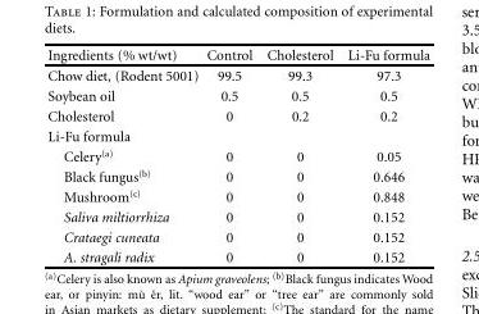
<table><thead><tr><td>Ingredients (% wt/wt)</td><td>Control</td><td>Cholesterol</td><td>Li-Fu formula</td></tr></thead><tbody><tr><td>Chow diet, (Rodent 5001)</td><td>99.5</td><td>99.3</td><td>97.3</td></tr><tr><td>Soybean oil</td><td>0.5</td><td>0.5</td><td>0.5</td></tr><tr><td>Cholesterol</td><td>0</td><td>0.2</td><td>0.2</td></tr><tr><td colspan="4">Li-Fu formula</td></tr><tr><td>Celery<sup>(a)</sup></td><td>0</td><td>0</td><td>0.05</td></tr><tr><td>Black fungus<sup>(b)</sup></td><td>0</td><td>0</td><td>0.646</td></tr><tr><td>Mushroom<sup>(c)</sup></td><td>0</td><td>0</td><td>0.848</td></tr><tr><td>Saliva miltiorrhiza</td><td>0</td><td>0</td><td>0.152</td></tr><tr><td>Crataegi cuneata</td><td>0</td><td>0</td><td>0.152</td></tr><tr><td>A. stragali radix</td><td>0</td><td>0</td><td>0.152</td></tr></tbody></table>